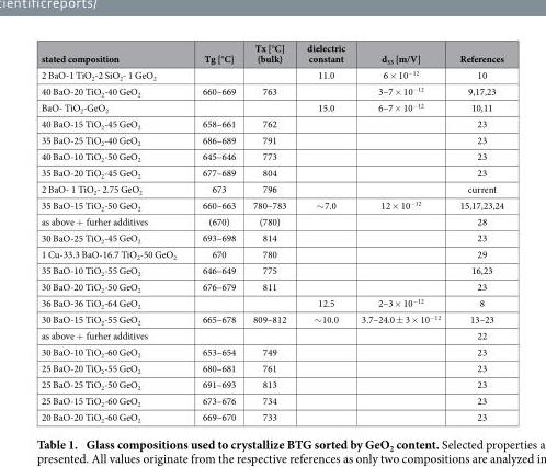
<table><thead><tr><td>stated composition</td><td>Tg [°C]</td><td>Tx [°C] (bulk)</td><td>dielectric constant</td><td>d<sub>33</sub> [m/V]</td><td>References</td></tr></thead><tbody><tr><td>2 BaO-1 TiO<sub>2</sub>-2 SiO<sub>2</sub>- 1 GeO<sub>2</sub></td><td></td><td></td><td>11.0</td><td>6 × 10<sup>−12</sup></td><td>10</td></tr><tr><td>40 BaO-20 TiO<sub>2</sub>-40 GeO<sub>2</sub></td><td>660–669</td><td>763</td><td></td><td>3–7 × 10<sup>−12</sup></td><td>9,17,23</td></tr><tr><td>BaO- TiO<sub>2</sub>-GeO<sub>2</sub></td><td></td><td></td><td>15.0</td><td>6–7 × 10<sup>−12</sup></td><td>10,11</td></tr><tr><td>40 BaO-15 TiO<sub>2</sub>-45 GeO<sub>2</sub></td><td>658–661</td><td>762</td><td></td><td></td><td>23</td></tr><tr><td>35 BaO-25 TiO<sub>2</sub>-40 GeO<sub>2</sub></td><td>686–689</td><td>791</td><td></td><td></td><td>23</td></tr><tr><td>40 BaO-10 TiO<sub>2</sub>-50 GeO<sub>2</sub></td><td>645–646</td><td>773</td><td></td><td></td><td>23</td></tr><tr><td>35 BaO-20 TiO<sub>2</sub>-45 GeO<sub>2</sub></td><td>677–689</td><td>804</td><td></td><td></td><td>23</td></tr><tr><td>2 BaO- 1 TiO<sub>2</sub>- 2.75 GeO<sub>2</sub></td><td>673</td><td>796</td><td></td><td></td><td>current</td></tr><tr><td>35 BaO-15 TiO<sub>2</sub>-50 GeO<sub>2</sub></td><td>660–663</td><td>780–783</td><td>∼ 7.0</td><td>12 × 10<sup>−12</sup></td><td>15,17,23,24</td></tr><tr><td>as above + furher additives</td><td>(670)</td><td>(780)</td><td></td><td></td><td>28</td></tr><tr><td>30 BaO-25 TiO<sub>2</sub>-45 GeO<sub>2</sub></td><td>693–698</td><td>814</td><td></td><td></td><td>23</td></tr><tr><td>1 Cu-33.3 BaO-16.7 TiO<sub>2</sub>-50 GeO<sub>2</sub></td><td>670</td><td>780</td><td></td><td></td><td>29</td></tr><tr><td>35 BaO-10 TiO<sub>2</sub>-55 GeO<sub>2</sub></td><td>646–649</td><td>775</td><td></td><td></td><td>16,23</td></tr><tr><td>30 BaO-20 TiO<sub>2</sub>-50 GeO<sub>2</sub></td><td>676–679</td><td>811</td><td></td><td></td><td>23</td></tr><tr><td>36 BaO-36 TiO<sub>2</sub>-64 GeO<sub>2</sub></td><td></td><td></td><td>12.5</td><td>2–3 × 10<sup>−12</sup></td><td>8</td></tr><tr><td>30 BaO-15 TiO<sub>2</sub>-55 GeO<sub>2</sub></td><td>665–678</td><td>809–812</td><td>∼ 10.0</td><td>3.7–24.0 ± 3 × 10<sup>−12</sup></td><td>13–23</td></tr><tr><td>as above + furher additives</td><td></td><td></td><td></td><td></td><td>22</td></tr><tr><td>30 BaO-10 TiO<sub>2</sub>-60 GeO<sub>2</sub></td><td>653–654</td><td>749</td><td></td><td></td><td>23</td></tr><tr><td>25 BaO-20 TiO<sub>2</sub>-55 GeO<sub>2</sub></td><td>680–681</td><td>761</td><td></td><td></td><td>23</td></tr><tr><td>25 BaO-25 TiO<sub>2</sub>-50 GeO<sub>2</sub></td><td>691–693</td><td>813</td><td></td><td></td><td>23</td></tr><tr><td>25 BaO-15 TiO<sub>2</sub>-60 GeO<sub>2</sub></td><td>673–676</td><td>734</td><td></td><td></td><td>23</td></tr><tr><td>20 BaO-20 TiO<sub>2</sub>-60 GeO<sub>2</sub></td><td>669–670</td><td>733</td><td></td><td></td><td>23</td></tr></tbody></table>